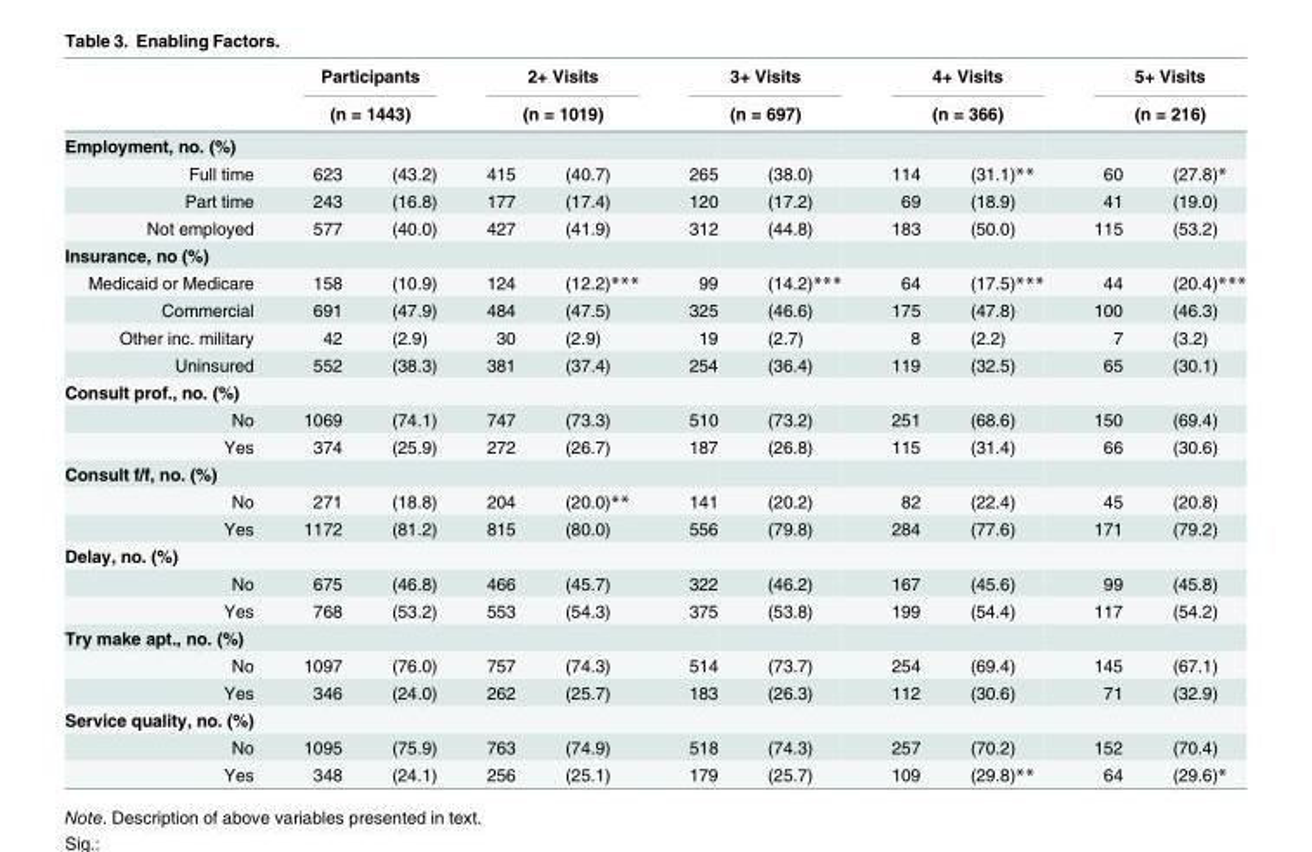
<table><thead><tr><td rowspan="3">Employment, no. (%)</td><td rowspan="2" colspan="2">Participants (n = 1443)</td><td rowspan="2" colspan="2">2+ Visits (n = 1019)</td><td rowspan="2" colspan="2">3+ Visits (n = 697)</td><td rowspan="2" colspan="2">4+ Visits (n = 366)</td><td rowspan="2" colspan="2">5+ Visits (n = 216)</td></tr><tr></tr><tr><td></td><td></td><td></td><td></td><td></td><td></td><td></td><td></td><td></td><td></td></tr></thead><tbody><tr><td>Full time</td><td>623</td><td>(43.2)</td><td>415</td><td>(40.7)</td><td>265</td><td>(38.0)</td><td>114</td><td>(31.1)**</td><td>60</td><td>(27.8)*</td></tr><tr><td>Part time</td><td>243</td><td>(16.8)</td><td>177</td><td>(17.4)</td><td>120</td><td>(17.2)</td><td>69</td><td>(18.9)</td><td>41</td><td>(19.0)</td></tr><tr><td>Not employed</td><td>577</td><td>(40.0)</td><td>427</td><td>(41.9)</td><td>312</td><td>(44.8)</td><td>183</td><td>(50.0)</td><td>115</td><td>(53.2)</td></tr><tr><td colspan="11">Insurance, no (%)</td></tr><tr><td>Medicaid or Medicare</td><td>158</td><td>(10.9)</td><td>124</td><td>(12.2)***</td><td>99</td><td>(14.2)***</td><td>64</td><td>(17.5)***</td><td>44</td><td>(20.4)***</td></tr><tr><td>Commercial</td><td>691</td><td>(47.9)</td><td>484</td><td>(47.5)</td><td>325</td><td>(46.6)</td><td>175</td><td>(47.8)</td><td>100</td><td>(46.3)</td></tr><tr><td>Other inc. military</td><td>42</td><td>(2.9)</td><td>30</td><td>(2.9)</td><td>19</td><td>(2.7)</td><td>8</td><td>(2.2)</td><td>7</td><td>(3.2)</td></tr><tr><td>Uninsured</td><td>552</td><td>(38.3)</td><td>381</td><td>(37.4)</td><td>254</td><td>(36.4)</td><td>119</td><td>(32.5)</td><td>65</td><td>(30.1)</td></tr><tr><td colspan="11">Consult prof., no. (%)</td></tr><tr><td>No</td><td>1069</td><td>(74.1)</td><td>747</td><td>(73.3)</td><td>510</td><td>(73.2)</td><td>251</td><td>(68.6)</td><td>150</td><td>(69.4)</td></tr><tr><td>Yes</td><td>374</td><td>(25.9)</td><td>272</td><td>(26.7)</td><td>187</td><td>(26.8)</td><td>115</td><td>(31.4)</td><td>66</td><td>(30.6)</td></tr><tr><td colspan="11">Consult f/f, no. (%)</td></tr><tr><td>No</td><td>271</td><td>(18.8)</td><td>204</td><td>(20.0)**</td><td>141</td><td>(20.2)</td><td>82</td><td>(22.4)</td><td>45</td><td>(20.8)</td></tr><tr><td>Yes</td><td>1172</td><td>(81.2)</td><td>815</td><td>(80.0)</td><td>556</td><td>(79.8)</td><td>284</td><td>(77.6)</td><td>171</td><td>(79.2)</td></tr><tr><td colspan="11">Delay, no. (%)</td></tr><tr><td>No</td><td>675</td><td>(46.8)</td><td>466</td><td>(45.7)</td><td>322</td><td>(46.2)</td><td>167</td><td>(45.6)</td><td>99</td><td>(45.8)</td></tr><tr><td>Yes</td><td>768</td><td>(53.2)</td><td>553</td><td>(54.3)</td><td>375</td><td>(53.8)</td><td>199</td><td>(54.4)</td><td>117</td><td>(54.2)</td></tr><tr><td colspan="11">Try make apt., no. (%)</td></tr><tr><td>No</td><td>1097</td><td>(76.0)</td><td>757</td><td>(74.3)</td><td>514</td><td>(73.7)</td><td>254</td><td>(69.4)</td><td>145</td><td>(67.1)</td></tr><tr><td>Yes</td><td>346</td><td>(24.0)</td><td>262</td><td>(25.7)</td><td>183</td><td>(26.3)</td><td>112</td><td>(30.6)</td><td>71</td><td>(32.9)</td></tr><tr><td colspan="11">Service quality, no. (%)</td></tr><tr><td>No</td><td>1095</td><td>(75.9)</td><td>763</td><td>(74.9)</td><td>518</td><td>(74.3)</td><td>257</td><td>(70.2)</td><td>152</td><td>(70.4)</td></tr><tr><td>Yes</td><td>348</td><td>(24.1)</td><td>256</td><td>(25.1)</td><td>179</td><td>(25.7)</td><td>109</td><td>(29.8)**</td><td>64</td><td>(29.6)*</td></tr></tbody></table>